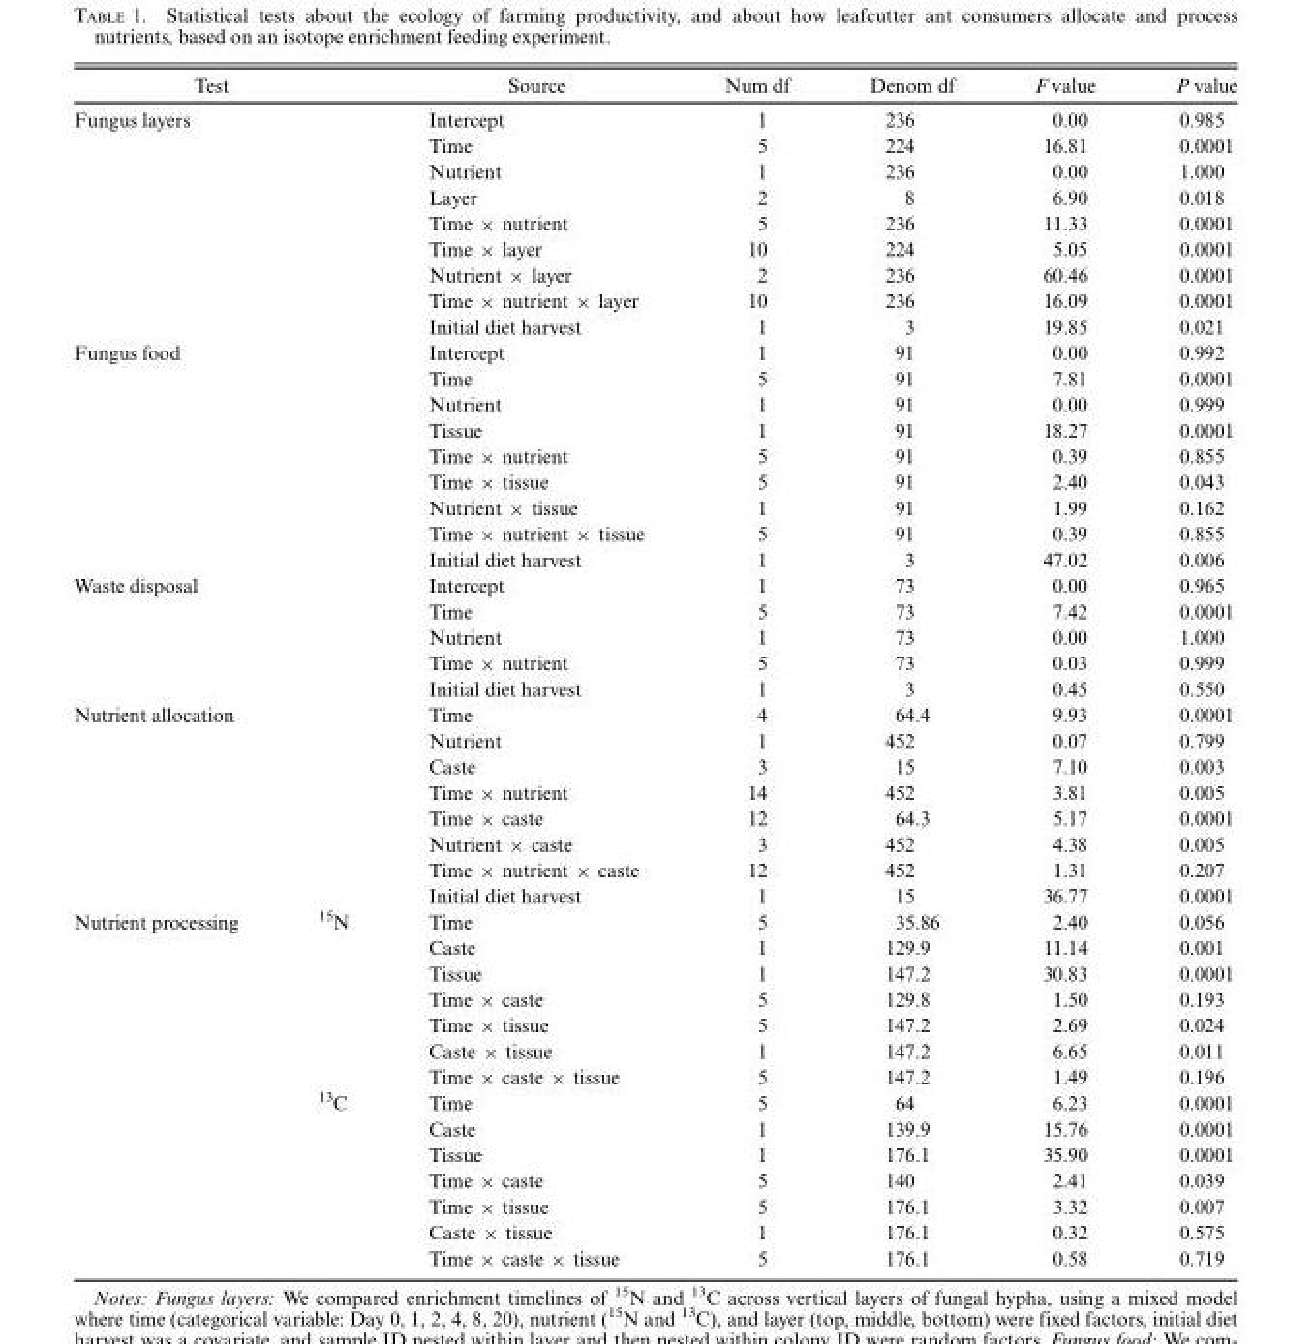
<table><thead><tr><td colspan="2">Test</td><td>Source</td><td>Num df</td><td>Denom df</td><td>F value</td><td>P value</td></tr></thead><tbody><tr><td rowspan="9" colspan="2">Fungus layers</td><td>Intercept</td><td>1</td><td>236</td><td>0.00</td><td>0.985</td></tr><tr><td>Time</td><td>5</td><td>224</td><td>16.81</td><td>0.0001</td></tr><tr><td>Nutrient</td><td>1</td><td>236</td><td>0.00</td><td>1.000</td></tr><tr><td>Layer</td><td>2</td><td>8</td><td>6.90</td><td>0.018</td></tr><tr><td>Time × nutrient</td><td>5</td><td>236</td><td>11.33</td><td>0.0001</td></tr><tr><td>Time × layer</td><td>10</td><td>224</td><td>5.05</td><td>0.0001</td></tr><tr><td>Nutrient × layer</td><td>2</td><td>236</td><td>60.46</td><td>0.0001</td></tr><tr><td>Time × nutrient × layer</td><td>10</td><td>236</td><td>16.09</td><td>0.0001</td></tr><tr><td>Initial diet harvest</td><td>1</td><td>3</td><td>19.85</td><td>0.021</td></tr><tr><td rowspan="9" colspan="2">Fungus food</td><td>Intercept</td><td>1</td><td>91</td><td>0.00</td><td>0.992</td></tr><tr><td>Time</td><td>5</td><td>91</td><td>7.81</td><td>0.0001</td></tr><tr><td>Nutrient</td><td>1</td><td>91</td><td>0.00</td><td>0.999</td></tr><tr><td>Tissue</td><td>1</td><td>91</td><td>18.27</td><td>0.0001</td></tr><tr><td>Time × nutrient</td><td>5</td><td>91</td><td>0.39</td><td>0.855</td></tr><tr><td>Time × tissue</td><td>5</td><td>91</td><td>2.40</td><td>0.043</td></tr><tr><td>Nutrient × tissue</td><td>1</td><td>91</td><td>1.99</td><td>0.162</td></tr><tr><td>Time × nutrient × tissue</td><td>5</td><td>91</td><td>0.39</td><td>0.855</td></tr><tr><td>Initial diet harvest</td><td>1</td><td>3</td><td>47.02</td><td>0.006</td></tr><tr><td rowspan="5" colspan="2">Waste disposal</td><td>Intercept</td><td>1</td><td>73</td><td>0.00</td><td>0.965</td></tr><tr><td>Time</td><td>5</td><td>73</td><td>7.42</td><td>0.0001</td></tr><tr><td>Nutrient</td><td>1</td><td>73</td><td>0.00</td><td>1.000</td></tr><tr><td>Time × nutrient</td><td>5</td><td>73</td><td>0.03</td><td>0.999</td></tr><tr><td>Initial diet harvest</td><td>1</td><td>3</td><td>0.45</td><td>0.550</td></tr><tr><td rowspan="8" colspan="2">Nutrient allocation</td><td>Time</td><td>4</td><td>64.4</td><td>9.93</td><td>0.0001</td></tr><tr><td>Nutrient</td><td>1</td><td>452</td><td>0.07</td><td>0.799</td></tr><tr><td>Caste</td><td>3</td><td>15</td><td>7.10</td><td>0.003</td></tr><tr><td>Time × nutrient</td><td>14</td><td>452</td><td>3.81</td><td>0.005</td></tr><tr><td>Time × caste</td><td>12</td><td>64.3</td><td>5.17</td><td>0.0001</td></tr><tr><td>Nutrient × caste</td><td>3</td><td>452</td><td>4.38</td><td>0.005</td></tr><tr><td>Time × nutrient × caste</td><td>12</td><td>452</td><td>1.31</td><td>0.207</td></tr><tr><td>Initial diet harvest</td><td>1</td><td>15</td><td>36.77</td><td>0.0001</td></tr><tr><td rowspan="14">Nutrient processing</td><td rowspan="7"><sup>15</sup>N</td><td>Time</td><td>5</td><td>35.86</td><td>2.40</td><td>0.056</td></tr><tr><td>Caste</td><td>1</td><td>129.9</td><td>11.14</td><td>0.001</td></tr><tr><td>Tissue</td><td>1</td><td>147.2</td><td>30.83</td><td>0.0001</td></tr><tr><td>Time × caste</td><td>5</td><td>129.8</td><td>1.50</td><td>0.193</td></tr><tr><td>Time × tissue</td><td>5</td><td>147.2</td><td>2.69</td><td>0.024</td></tr><tr><td>Caste × tissue</td><td>1</td><td>147.2</td><td>6.65</td><td>0.011</td></tr><tr><td>Time × caste × tissue</td><td>5</td><td>147.2</td><td>1.49</td><td>0.196</td></tr><tr><td rowspan="7"><sup>13</sup>C</td><td>Time</td><td>5</td><td>64</td><td>6.23</td><td>0.0001</td></tr><tr><td>Caste</td><td>1</td><td>139.9</td><td>15.76</td><td>0.0001</td></tr><tr><td>Tissue</td><td>1</td><td>176.1</td><td>35.90</td><td>0.0001</td></tr><tr><td>Time × caste</td><td>5</td><td>140</td><td>2.41</td><td>0.039</td></tr><tr><td>Time × tissue</td><td>5</td><td>176.1</td><td>3.32</td><td>0.007</td></tr><tr><td>Caste × tissue</td><td>1</td><td>176.1</td><td>0.32</td><td>0.575</td></tr><tr><td>Time × caste × tissue</td><td>5</td><td>176.1</td><td>0.58</td><td>0.719</td></tr></tbody></table>